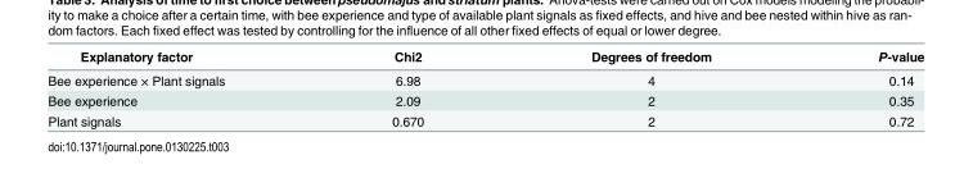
<table><thead><tr><td>Explanatory factor</td><td>Chi2</td><td>Degrees of freedom</td><td>P-value</td></tr></thead><tbody><tr><td>Bee experience × Plant signals</td><td>6.98</td><td>4</td><td>0.14</td></tr><tr><td>Bee experience</td><td>2.09</td><td>2</td><td>0.35</td></tr><tr><td>Plant signals</td><td>0.670</td><td>2</td><td>0.72</td></tr></tbody></table>